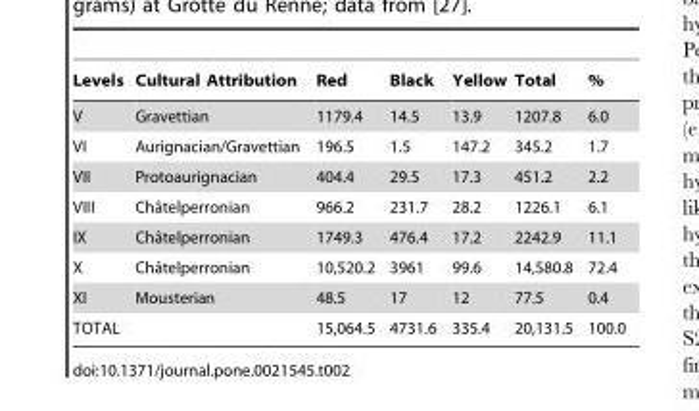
<table><thead><tr><td>Levels</td><td>Cultural Attribution</td><td>Red</td><td>Black</td><td>Yellow</td><td>Total</td><td>%</td></tr></thead><tbody><tr><td>V</td><td>Gravettian</td><td>1179.4</td><td>14.5</td><td>13.9</td><td>1207.8</td><td>6.0</td></tr><tr><td>VI</td><td>Aurignacian/Gravettian</td><td>196.5</td><td>1.5</td><td>147.2</td><td>345.2</td><td>1.7</td></tr><tr><td>VII</td><td>Protoaurignacian</td><td>404.4</td><td>29.5</td><td>17.3</td><td>451.2</td><td>2.2</td></tr><tr><td>VIII</td><td>Chaˆtelperronian</td><td>966.2</td><td>231.7</td><td>28.2</td><td>1226.1</td><td>6.1</td></tr><tr><td>IX</td><td>Chaˆtelperronian</td><td>1749.3</td><td>476.4</td><td>17.2</td><td>2242.9</td><td>11.1</td></tr><tr><td>X</td><td>Chaˆtelperronian</td><td>10,520.2</td><td>3961</td><td>99.6</td><td>14,580.8</td><td>72.4</td></tr><tr><td>XI</td><td>Mousterian</td><td>48.5</td><td>17</td><td>12</td><td>77.5</td><td>0.4</td></tr><tr><td>TOTAL</td><td></td><td>15,064.5</td><td>4731.6</td><td>335.4</td><td>20,131.5</td><td>100.0</td></tr></tbody></table>